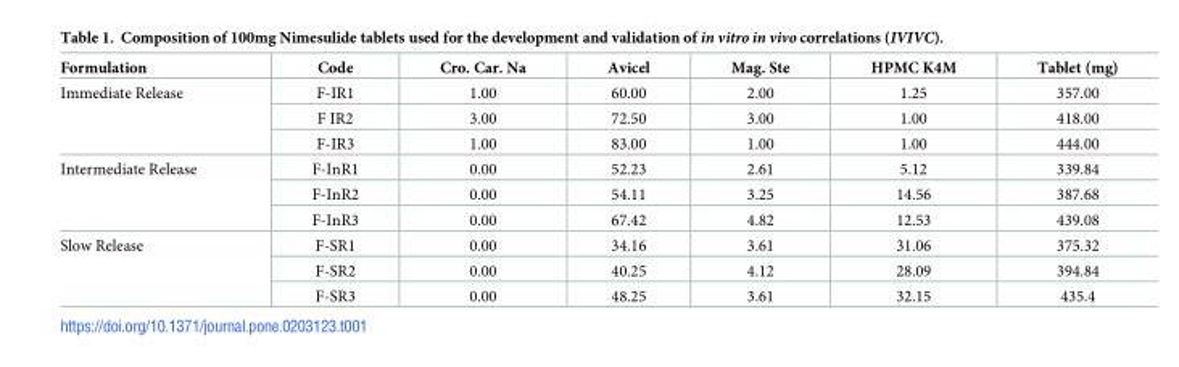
<table><thead><tr><td>Formulation</td><td>Code</td><td>Cro. Car. Na</td><td>Avicel</td><td>Mag. Ste</td><td>HPMC K4M</td><td>Tablet (mg)</td></tr></thead><tbody><tr><td rowspan="3">Immediate Release</td><td>F-IR1</td><td>1.00</td><td>60.00</td><td>2.00</td><td>1.25</td><td>357.00</td></tr><tr><td>F IR2</td><td>3.00</td><td>72.50</td><td>3.00</td><td>1.00</td><td>418.00</td></tr><tr><td>F-IR3</td><td>1.00</td><td>83.00</td><td>1.00</td><td>1.00</td><td>444.00</td></tr><tr><td rowspan="3">Intermediate Release</td><td>F-InR1</td><td>0.00</td><td>52.23</td><td>2.61</td><td>5.12</td><td>339.84</td></tr><tr><td>F-InR2</td><td>0.00</td><td>54.11</td><td>3.25</td><td>14.56</td><td>387.68</td></tr><tr><td>F-InR3</td><td>0.00</td><td>67.42</td><td>4.82</td><td>12.53</td><td>439.08</td></tr><tr><td rowspan="3">Slow Release</td><td>F-SR1</td><td>0.00</td><td>34.16</td><td>3.61</td><td>31.06</td><td>375.32</td></tr><tr><td>F-SR2</td><td>0.00</td><td>40.25</td><td>4.12</td><td>28.09</td><td>394.84</td></tr><tr><td>F-SR3</td><td>0.00</td><td>48.25</td><td>3.61</td><td>32.15</td><td>435.4</td></tr></tbody></table>